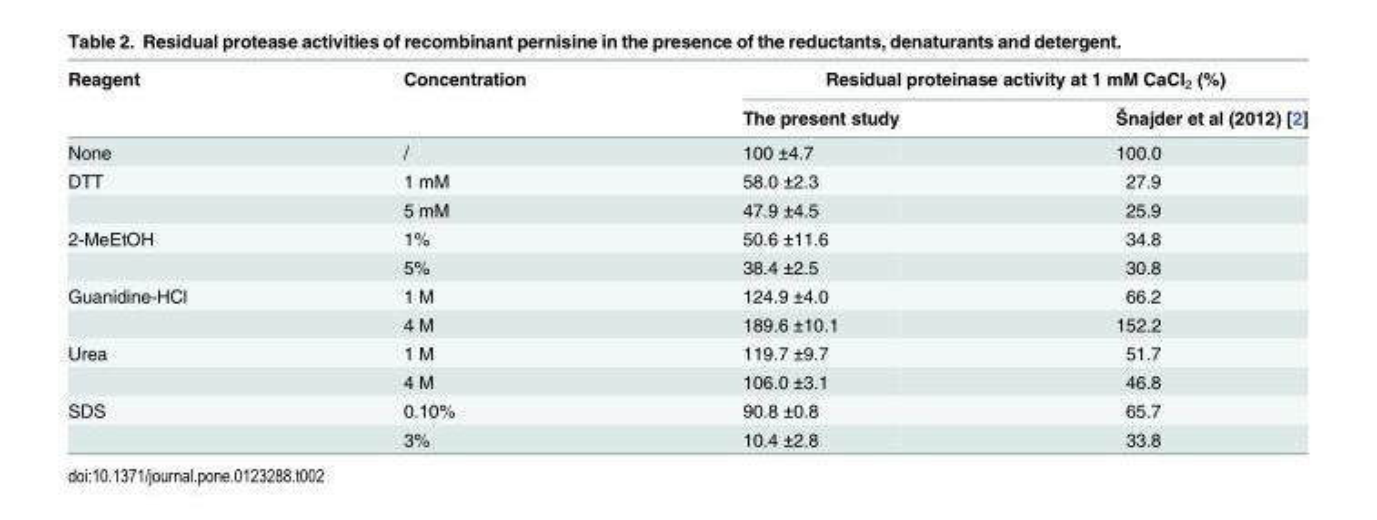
<table><thead><tr><td rowspan="2">Reagent</td><td rowspan="2">Concentration</td><td colspan="2">Residual proteinase activity at 1 mM CaCl<sub>2</sub> (%)</td></tr><tr><td>The present study</td><td>Šnajder et al (2012) [2]</td></tr></thead><tbody><tr><td>None</td><td>/</td><td>100 ±4.7</td><td>100.0</td></tr><tr><td rowspan="2">DTT</td><td>1 mM</td><td>58.0 ±2.3</td><td>27.9</td></tr><tr><td>5 mM</td><td>47.9 ±4.5</td><td>25.9</td></tr><tr><td rowspan="2">2-MeEtOH</td><td>1%</td><td>50.6 ±11.6</td><td>34.8</td></tr><tr><td>5%</td><td>38.4 ±2.5</td><td>30.8</td></tr><tr><td rowspan="2">Guanidine-HCl</td><td>1 M</td><td>124.9 ±4.0</td><td>66.2</td></tr><tr><td>4 M</td><td>189.6 ±10.1</td><td>152.2</td></tr><tr><td rowspan="2">Urea</td><td>1 M</td><td>119.7 ±9.7</td><td>51.7</td></tr><tr><td>4 M</td><td>106.0 ±3.1</td><td>46.8</td></tr><tr><td rowspan="2">SDS</td><td>0.10%</td><td>90.8 ±0.8</td><td>65.7</td></tr><tr><td>3%</td><td>10.4 ±2.8</td><td>33.8</td></tr></tbody></table>